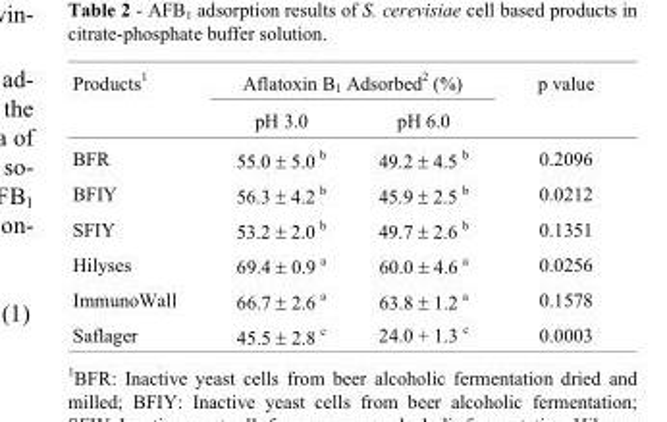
<table><thead><tr><td rowspan="2">Products<sup>1</sup></td><td colspan="2">Aflatoxin B<sub>1</sub> Adsorbed<sup>2</sup> (%)</td><td rowspan="2">p value</td></tr><tr><td>pH 3.0</td><td>pH 6.0</td></tr></thead><tbody><tr><td>BFR</td><td>55.0 ± 5.0 b</td><td>49.2 ± 4.5 b</td><td>0.2096</td></tr><tr><td>BFIY</td><td>56.3 ± 4.2 b</td><td>45.9 ± 2.5 b</td><td>0.0212</td></tr><tr><td>SFIY</td><td>53.2 ± 2.0 b</td><td>49.7 ± 2.6 b</td><td>0.1351</td></tr><tr><td>Hilyses</td><td>69.4 ± 0.9 a</td><td>60.0 ± 4.6 a</td><td>0.0256</td></tr><tr><td>ImmunoWall</td><td>66.7 ± 2.6 a</td><td>63.8 ± 1.2 a</td><td>0.1578</td></tr><tr><td>Saflager</td><td>45.5 ± 2.8 c</td><td>24.0 + 1.3 c</td><td>0.0003</td></tr></tbody></table>